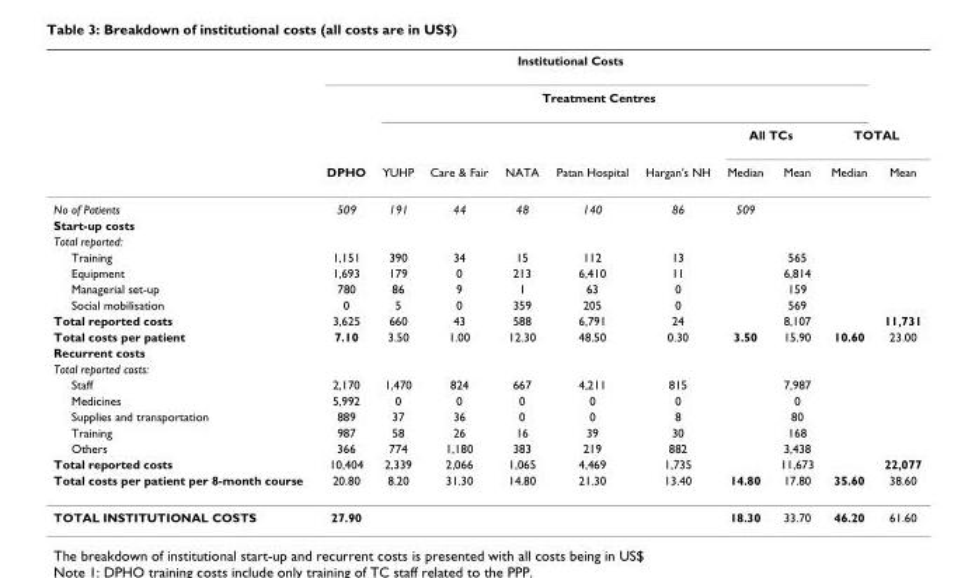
<table><thead><tr><td rowspan="4"></td><td colspan="8">Institutional Costs</td><td rowspan="2"></td><td rowspan="2"></td></tr><tr><td rowspan="3">DPHO</td><td colspan="7">Treatment Centres</td></tr><tr><td rowspan="2">YUHP</td><td rowspan="2">Care &amp; Fair</td><td rowspan="2">NATA</td><td rowspan="2">Patan Hospital</td><td rowspan="2">Hargan&#x27;s NH</td><td colspan="2">All TCs</td><td colspan="2">TOTAL</td></tr><tr><td>Median</td><td>Mean</td><td>Median</td><td>Mean</td></tr></thead><tbody><tr><td>No of Patients</td><td>509</td><td>191</td><td>44</td><td>48</td><td>140</td><td>86</td><td>509</td><td></td><td></td><td></td></tr><tr><td colspan="11">Start-up costs</td></tr><tr><td colspan="11">Total reported:</td></tr><tr><td>Training</td><td>1,151</td><td>390</td><td>34</td><td>15</td><td>112</td><td>13</td><td></td><td>565</td><td></td><td></td></tr><tr><td>Equipment</td><td>1,693</td><td>179</td><td>0</td><td>213</td><td>6,410</td><td>11</td><td></td><td>6,814</td><td></td><td></td></tr><tr><td>Managerial set-up</td><td>780</td><td>86</td><td>9</td><td>1</td><td>63</td><td>0</td><td></td><td>159</td><td></td><td></td></tr><tr><td>Social mobilisation</td><td>0</td><td>5</td><td>0</td><td>359</td><td>205</td><td>0</td><td></td><td>569</td><td></td><td></td></tr><tr><td>Total reported costs</td><td>3,625</td><td>660</td><td>43</td><td>588</td><td>6,791</td><td>24</td><td></td><td>8,107</td><td></td><td>11,731</td></tr><tr><td>Total costs per patient</td><td>7.10</td><td>3.50</td><td>1.00</td><td>12.30</td><td>48.50</td><td>0.30</td><td>3.50</td><td>15.90</td><td>10.60</td><td>23.00</td></tr><tr><td colspan="11">Recurrent costs</td></tr><tr><td colspan="11">Total reported costs:</td></tr><tr><td>Staff</td><td>2,170</td><td>1,470</td><td>824</td><td>667</td><td>4,211</td><td>815</td><td></td><td>7,987</td><td></td><td></td></tr><tr><td>Medicines</td><td>5,992</td><td>0</td><td>0</td><td>0</td><td>0</td><td>0</td><td></td><td>0</td><td></td><td></td></tr><tr><td>Supplies and transportation</td><td>889</td><td>37</td><td>36</td><td>0</td><td>0</td><td>8</td><td></td><td>80</td><td></td><td></td></tr><tr><td>Training</td><td>987</td><td>58</td><td>26</td><td>16</td><td>39</td><td>30</td><td></td><td>168</td><td></td><td></td></tr><tr><td>Others</td><td>366</td><td>774</td><td>1,180</td><td>383</td><td>219</td><td>882</td><td></td><td>3,438</td><td></td><td></td></tr><tr><td>Total reported costs</td><td>10,404</td><td>2,339</td><td>2,066</td><td>1,065</td><td>4,469</td><td>1,735</td><td></td><td>11,673</td><td></td><td>22,077</td></tr><tr><td>Total costs per patient per 8-month course</td><td>20.80</td><td>8.20</td><td>31.30</td><td>14.80</td><td>21.30</td><td>13.40</td><td>14.80</td><td>17.80</td><td>35.60</td><td>38.60</td></tr><tr><td>TOTAL INSTITUTIONAL COSTS</td><td>27.90</td><td></td><td></td><td></td><td></td><td></td><td>18.30</td><td>33.70</td><td>46.20</td><td>61.60</td></tr></tbody></table>